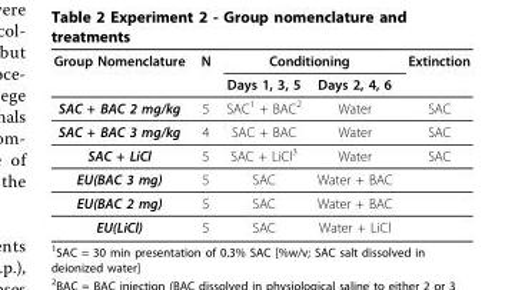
<table><thead><tr><td rowspan="2">Group Nomenclature</td><td rowspan="2">N</td><td colspan="2">Conditioning</td><td rowspan="2">Extinction</td></tr><tr><td>Days 1, 3, 5</td><td>Days 2, 4, 6</td></tr></thead><tbody><tr><td>SAC + BAC 2 mg/kg</td><td>5</td><td>SAC<sup>1</sup> + BAC<sup>2</sup></td><td>Water</td><td>SAC</td></tr><tr><td>SAC + BAC 3 mg/kg</td><td>4</td><td>SAC + BAC</td><td>Water</td><td>SAC</td></tr><tr><td>SAC + LiCl</td><td>5</td><td>SAC + LiCl<sup>3</sup></td><td>Water</td><td>SAC</td></tr><tr><td>EU(BAC 3 mg)</td><td>5</td><td>SAC</td><td>Water + BAC</td><td></td></tr><tr><td>EU(BAC 2 mg)</td><td>5</td><td>SAC</td><td>Water + BAC</td><td></td></tr><tr><td>EU(LiCl)</td><td>5</td><td>SAC</td><td>Water + LiCl</td><td></td></tr></tbody></table>